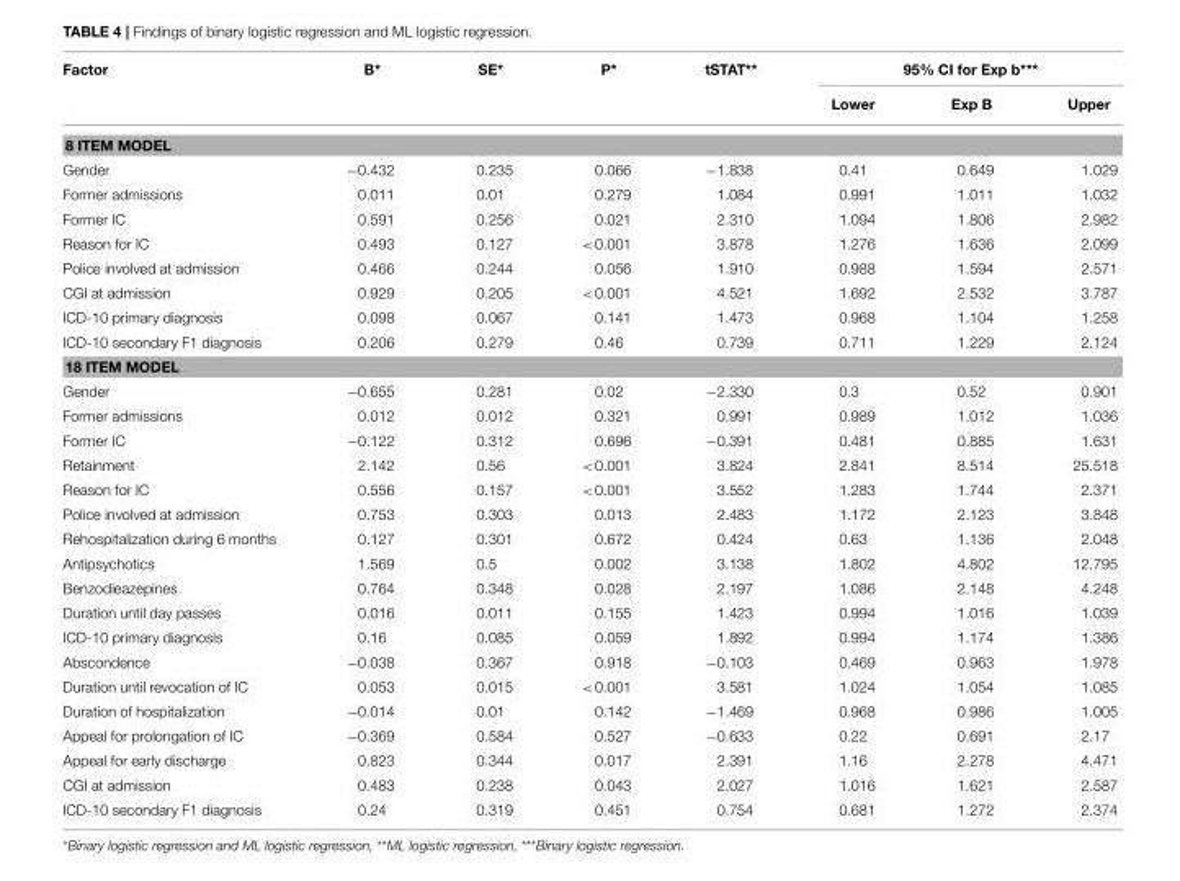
<table><thead><tr><td rowspan="2">Factor</td><td rowspan="2">B*</td><td rowspan="2">SE*</td><td rowspan="2">P*</td><td rowspan="2">tSTAT**</td><td colspan="3">95% CI for Exp b***</td></tr><tr><td>Lower</td><td>Exp B</td><td>Upper</td></tr></thead><tbody><tr><td colspan="8">8 ITEM MODEL</td></tr><tr><td>Gender</td><td>−0.432</td><td>0.235</td><td>0.066</td><td>−1.838</td><td>0.41</td><td>0.649</td><td>1.029</td></tr><tr><td>Former admissions</td><td>0.011</td><td>0.01</td><td>0.279</td><td>1.084</td><td>0.991</td><td>1.011</td><td>1.032</td></tr><tr><td>Former IC</td><td>0.591</td><td>0.256</td><td>0.021</td><td>2.310</td><td>1.094</td><td>1.806</td><td>2.982</td></tr><tr><td>Reason for IC</td><td>0.493</td><td>0.127</td><td>&lt;0.001</td><td>3.878</td><td>1.276</td><td>1.636</td><td>2.099</td></tr><tr><td>Police involved at admission</td><td>0.466</td><td>0.244</td><td>0.056</td><td>1.910</td><td>0.988</td><td>1.594</td><td>2.571</td></tr><tr><td>CGI at admission</td><td>0.929</td><td>0.205</td><td>&lt;0.001</td><td>4.521</td><td>1.692</td><td>2.532</td><td>3.787</td></tr><tr><td>ICD-10 primary diagnosis</td><td>0.098</td><td>0.067</td><td>0.141</td><td>1.473</td><td>0.968</td><td>1.104</td><td>1.258</td></tr><tr><td>ICD-10 secondary F1 diagnosis</td><td>0.206</td><td>0.279</td><td>0.46</td><td>0.739</td><td>0.711</td><td>1.229</td><td>2.124</td></tr><tr><td colspan="8">18 ITEM MODEL</td></tr><tr><td>Gender</td><td>−0.655</td><td>0.281</td><td>0.02</td><td>−2.330</td><td>0.3</td><td>0.52</td><td>0.901</td></tr><tr><td>Former admissions</td><td>0.012</td><td>0.012</td><td>0.321</td><td>0.991</td><td>0.989</td><td>1.012</td><td>1.036</td></tr><tr><td>Former IC</td><td>−0.122</td><td>0.312</td><td>0.696</td><td>−0.391</td><td>0.481</td><td>0.885</td><td>1.631</td></tr><tr><td>Retainment</td><td>2.142</td><td>0.56</td><td>&lt;0.001</td><td>3.824</td><td>2.841</td><td>8.514</td><td>25.518</td></tr><tr><td>Reason for IC</td><td>0.556</td><td>0.157</td><td>&lt;0.001</td><td>3.552</td><td>1.283</td><td>1.744</td><td>2.371</td></tr><tr><td>Police involved at admission</td><td>0.753</td><td>0.303</td><td>0.013</td><td>2.483</td><td>1.172</td><td>2.123</td><td>3.848</td></tr><tr><td>Rehospitalization during 6 months</td><td>0.127</td><td>0.301</td><td>0.672</td><td>0.424</td><td>0.63</td><td>1.136</td><td>2.048</td></tr><tr><td>Antipsychotics</td><td>1.569</td><td>0.5</td><td>0.002</td><td>3.138</td><td>1.802</td><td>4.802</td><td>12.795</td></tr><tr><td>Benzodieazepines</td><td>0.764</td><td>0.348</td><td>0.028</td><td>2.197</td><td>1.086</td><td>2.148</td><td>4.248</td></tr><tr><td>Duration until day passes</td><td>0.016</td><td>0.011</td><td>0.155</td><td>1.423</td><td>0.994</td><td>1.016</td><td>1.039</td></tr><tr><td>ICD-10 primary diagnosis</td><td>0.16</td><td>0.085</td><td>0.059</td><td>1.892</td><td>0.994</td><td>1.174</td><td>1.386</td></tr><tr><td>Abscondence</td><td>−0.038</td><td>0.367</td><td>0.918</td><td>−0.103</td><td>0.469</td><td>0.963</td><td>1.978</td></tr><tr><td>Duration until revocation of IC</td><td>0.053</td><td>0.015</td><td>&lt;0.001</td><td>3.581</td><td>1.024</td><td>1.054</td><td>1.085</td></tr><tr><td>Duration of hospitalization</td><td>−0.014</td><td>0.01</td><td>0.142</td><td>−1.469</td><td>0.968</td><td>0.986</td><td>1.005</td></tr><tr><td>Appeal for prolongation of IC</td><td>−0.369</td><td>0.584</td><td>0.527</td><td>−0.633</td><td>0.22</td><td>0.691</td><td>2.17</td></tr><tr><td>Appeal for early discharge</td><td>0.823</td><td>0.344</td><td>0.017</td><td>2.391</td><td>1.16</td><td>2.278</td><td>4.471</td></tr><tr><td>CGI at admission</td><td>0.483</td><td>0.238</td><td>0.043</td><td>2.027</td><td>1.016</td><td>1.621</td><td>2.587</td></tr><tr><td>ICD-10 secondary F1 diagnosis</td><td>0.24</td><td>0.319</td><td>0.451</td><td>0.754</td><td>0.681</td><td>1.272</td><td>2.374</td></tr></tbody></table>